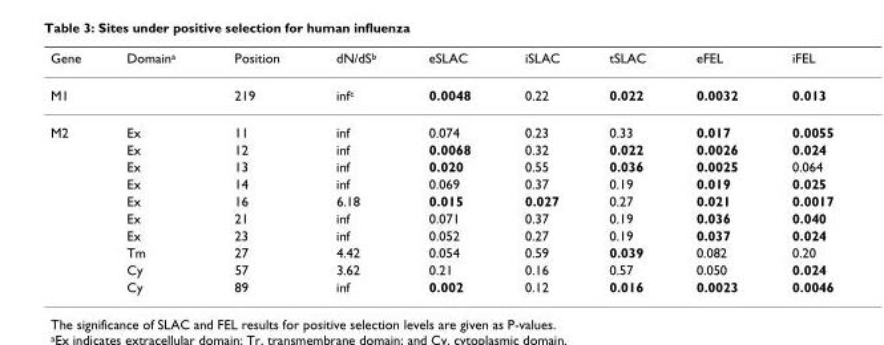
<table><thead><tr><td>Gene</td><td>Domain<sup>a</sup></td><td>Position</td><td>dN/dS<sup>b</sup></td><td>eSLAC</td><td>iSLAC</td><td>tSLAC</td><td>eFEL</td><td>iFEL</td></tr></thead><tbody><tr><td>M1</td><td></td><td>219</td><td>inf<sup>c</sup></td><td>0.0048</td><td>0.22</td><td>0.022</td><td>0.0032</td><td>0.013</td></tr><tr><td rowspan="10">M2</td><td>Ex</td><td>11</td><td>inf</td><td>0.074</td><td>0.23</td><td>0.33</td><td>0.017</td><td>0.0055</td></tr><tr><td>Ex</td><td>12</td><td>inf</td><td>0.0068</td><td>0.32</td><td>0.022</td><td>0.0026</td><td>0.024</td></tr><tr><td>Ex</td><td>13</td><td>inf</td><td>0.020</td><td>0.55</td><td>0.036</td><td>0.0025</td><td>0.064</td></tr><tr><td>Ex</td><td>14</td><td>inf</td><td>0.069</td><td>0.37</td><td>0.19</td><td>0.019</td><td>0.025</td></tr><tr><td>Ex</td><td>16</td><td>6.18</td><td>0.015</td><td>0.027</td><td>0.27</td><td>0.021</td><td>0.0017</td></tr><tr><td>Ex</td><td>21</td><td>inf</td><td>0.071</td><td>0.37</td><td>0.19</td><td>0.036</td><td>0.040</td></tr><tr><td>Ex</td><td>23</td><td>inf</td><td>0.052</td><td>0.27</td><td>0.19</td><td>0.037</td><td>0.024</td></tr><tr><td>Tm</td><td>27</td><td>4.42</td><td>0.054</td><td>0.59</td><td>0.039</td><td>0.082</td><td>0.20</td></tr><tr><td>Cy</td><td>57</td><td>3.62</td><td>0.21</td><td>0.16</td><td>0.57</td><td>0.050</td><td>0.024</td></tr><tr><td>Cy</td><td>89</td><td>inf</td><td>0.002</td><td>0.12</td><td>0.016</td><td>0.0023</td><td>0.0046</td></tr></tbody></table>